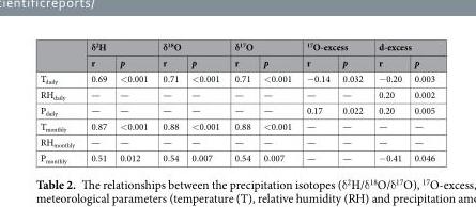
<table><thead><tr><td rowspan="2"></td><td colspan="2">δ<sup>2</sup>H</td><td colspan="2">δ<sup>18</sup>O</td><td colspan="2">δ<sup>17</sup>O</td><td colspan="2"><sup>17</sup>O-excess</td><td colspan="2">d-excess</td></tr><tr><td>r</td><td>p</td><td>r</td><td>p</td><td>r</td><td>p</td><td>r</td><td>p</td><td>r</td><td>p</td></tr></thead><tbody><tr><td>T<sub>daily</sub></td><td>0.69</td><td>&lt;0.001</td><td>0.71</td><td>&lt;0.001</td><td>0.71</td><td>&lt;0.001</td><td>−0.14</td><td>0.032</td><td>−0.20</td><td>0.003</td></tr><tr><td>RH<sub>daily</sub></td><td>—</td><td>—</td><td>—</td><td>—</td><td>—</td><td>—</td><td>—</td><td>—</td><td>0.20</td><td>0.002</td></tr><tr><td>P<sub>daily</sub></td><td>—</td><td>—</td><td>—</td><td>—</td><td>—</td><td>—</td><td>0.17</td><td>0.022</td><td>0.20</td><td>0.005</td></tr><tr><td>T<sub>monthly</sub></td><td>0.87</td><td>&lt;0.001</td><td>0.88</td><td>&lt;0.001</td><td>0.88</td><td>&lt;0.001</td><td>—</td><td>—</td><td>—</td><td>—</td></tr><tr><td>RH<sub>monthly</sub></td><td>—</td><td>—</td><td>—</td><td>—</td><td>—</td><td>—</td><td>—</td><td>—</td><td>—</td><td>—</td></tr><tr><td>P<sub>monthly</sub></td><td>0.51</td><td>0.012</td><td>0.54</td><td>0.007</td><td>0.54</td><td>0.007</td><td>—</td><td>—</td><td>−0.41</td><td>0.046</td></tr></tbody></table>